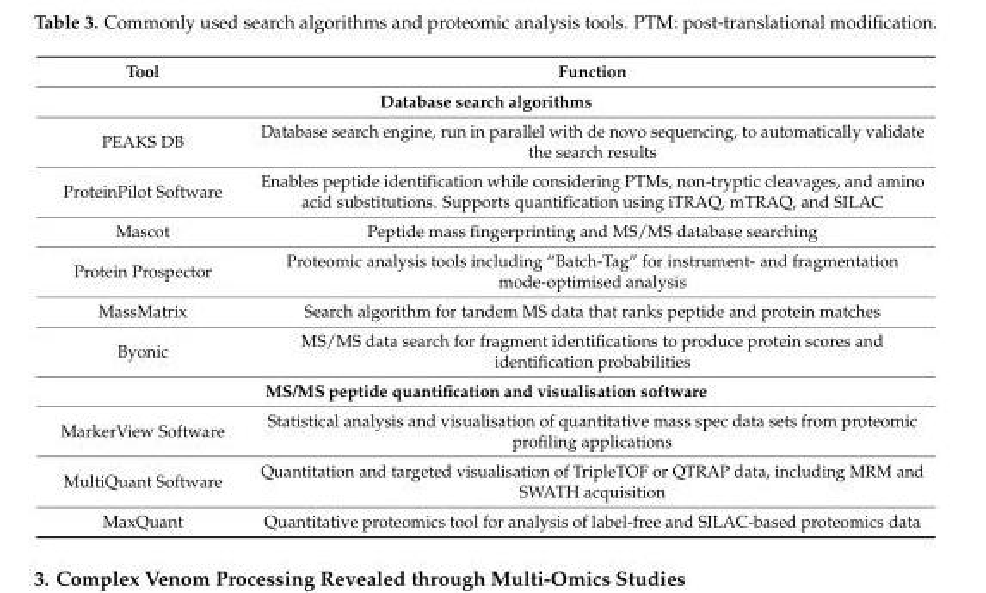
<table><thead><tr><td>Tool</td><td>Function</td></tr></thead><tbody><tr><td colspan="2">Database search algorithms</td></tr><tr><td>PEAKS DB</td><td>Database search engine, run in parallel with de novo sequencing, to automatically validate the search results</td></tr><tr><td>ProteinPilot Software</td><td>Enables peptide identification while considering PTMs, non-tryptic cleavages, and amino acid substitutions. Supports quantification using iTRAQ, mTRAQ, and SILAC</td></tr><tr><td>Mascot</td><td>Peptide mass fingerprinting and MS/MS database searching</td></tr><tr><td>Protein Prospector</td><td>Proteomic analysis tools including “Batch-Tag” for instrument- and fragmentation mode-optimised analysis</td></tr><tr><td>MassMatrix</td><td>Search algorithm for tandem MS data that ranks peptide and protein matches</td></tr><tr><td>Byonic</td><td>MS/MS data search for fragment identifications to produce protein scores and identification probabilities</td></tr><tr><td colspan="2">MS/MS peptide quantification and visualisation software</td></tr><tr><td>MarkerView Software</td><td>Statistical analysis and visualisation of quantitative mass spec data sets from proteomic profiling applications</td></tr><tr><td>MultiQuant Software</td><td>Quantitation and targeted visualisation of TripleTOF or QTRAP data, including MRM and SWATH acquisition</td></tr><tr><td>MaxQuant</td><td>Quantitative proteomics tool for analysis of label-free and SILAC-based proteomics data</td></tr></tbody></table>